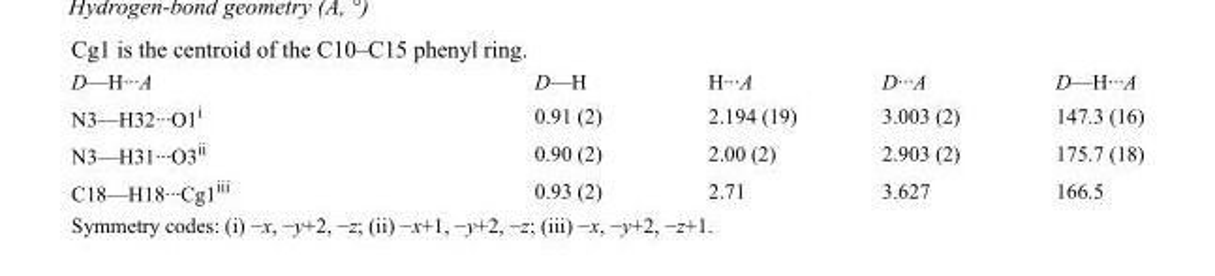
<table><tbody><tr><td>D—H···A</td><td>D—H</td><td>H···A</td><td>D···A</td><td>D—H···A</td></tr><tr><td>N3—H32···O1<sup>i</sup></td><td>0.91 (2)</td><td>2.194 (19)</td><td>3.003 (2)</td><td>147.3 (16)</td></tr><tr><td>N3—H31···O3<sup>ii</sup></td><td>0.90 (2)</td><td>2.00 (2)</td><td>2.903 (2)</td><td>175.7 (18)</td></tr><tr><td>C18—H18···Cg1<sup>iii</sup></td><td>0.93 (2)</td><td>2.71</td><td>3.627</td><td>166.5</td></tr></tbody></table>